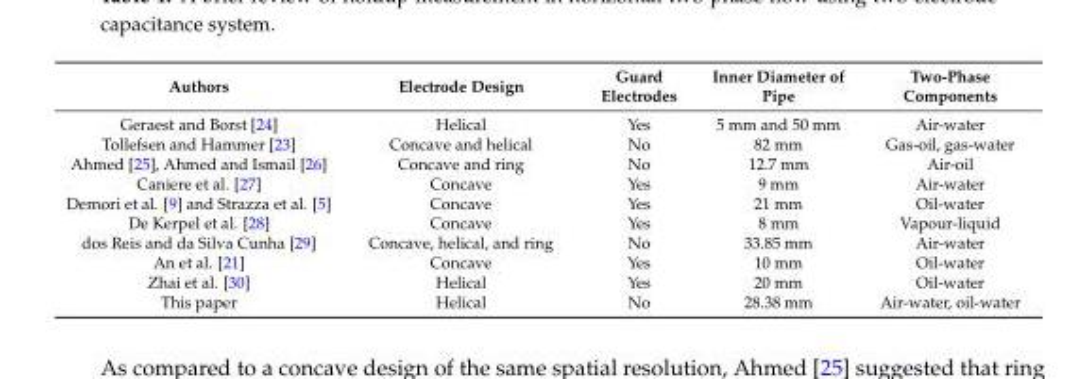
<table><thead><tr><td>Authors</td><td>Electrode Design</td><td>Guard Electrodes</td><td>Inner Diameter of Pipe</td><td>Two-Phase Components</td></tr></thead><tbody><tr><td>Geraest and Borst [24]</td><td>Helical</td><td>Yes</td><td>5 mm and 50 mm</td><td>Air-water</td></tr><tr><td>Tollefsen and Hammer [23]</td><td>Concave and helical</td><td>No</td><td>82 mm</td><td>Gas-oil, gas-water</td></tr><tr><td>Ahmed [25], Ahmed and Ismail [26]</td><td>Concave and ring</td><td>No</td><td>12.7 mm</td><td>Air-oil</td></tr><tr><td>Caniere et al. [27]</td><td>Concave</td><td>Yes</td><td>9 mm</td><td>Air-water</td></tr><tr><td>Demori et al. [9] and Strazza et al. [5]</td><td>Concave</td><td>Yes</td><td>21 mm</td><td>Oil-water</td></tr><tr><td>De Kerpel et al. [28]</td><td>Concave</td><td>Yes</td><td>8 mm</td><td>Vapour-liquid</td></tr><tr><td>dos Reis and da Silva Cunha [29]</td><td>Concave, helical, and ring</td><td>No</td><td>33.85 mm</td><td>Air-water</td></tr><tr><td>An et al. [21]</td><td>Concave</td><td>Yes</td><td>10 mm</td><td>Oil-water</td></tr><tr><td>Zhai et al. [30]</td><td>Helical</td><td>Yes</td><td>20 mm</td><td>Oil-water</td></tr><tr><td>This paper</td><td>Helical</td><td>No</td><td>28.38 mm</td><td>Air-water, oil-water</td></tr></tbody></table>